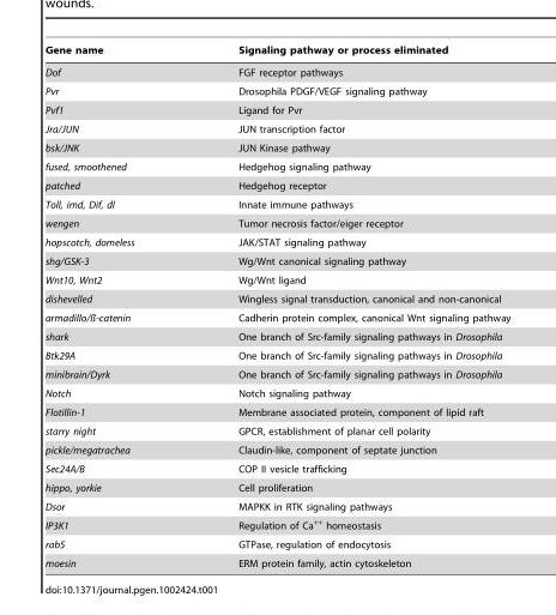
<table><thead><tr><td>Gene name</td><td>Signaling pathway or process eliminated</td></tr></thead><tbody><tr><td>Dof</td><td>FGF receptor pathways</td></tr><tr><td>Pvr</td><td>Drosophila PDGF/VEGF signaling pathway</td></tr><tr><td>Pvf1</td><td>Ligand for Pvr</td></tr><tr><td>Jra/JUN</td><td>JUN transcription factor</td></tr><tr><td>bsk/JNK</td><td>JUN Kinase pathway</td></tr><tr><td>fused, smoothened</td><td>Hedgehog signaling pathway</td></tr><tr><td>patched</td><td>Hedgehog receptor</td></tr><tr><td>Toll, imd, Dif, dl</td><td>Innate immune pathways</td></tr><tr><td>wengen</td><td>Tumor necrosis factor/eiger receptor</td></tr><tr><td>hopscotch, domeless</td><td>JAK/STAT signaling pathway</td></tr><tr><td>shg/GSK-3</td><td>Wg/Wnt canonical signaling pathway</td></tr><tr><td>Wnt10, Wnt2</td><td>Wg/Wnt ligand</td></tr><tr><td>dishevelled</td><td>Wingless signal transduction, canonical and non-canonical</td></tr><tr><td>armadillo/ß-catenin</td><td>Cadherin protein complex, canonical Wnt signaling pathway</td></tr><tr><td>shark</td><td>One branch of Src-family signaling pathways in Drosophila</td></tr><tr><td>Btk29A</td><td>One branch of Src-family signaling pathways in Drosophila</td></tr><tr><td>minibrain/Dyrk</td><td>One branch of Src-family signaling pathways in Drosophila</td></tr><tr><td>Notch</td><td>Notch signaling pathway</td></tr><tr><td>Flotillin-1</td><td>Membrane associated protein, component of lipid raft</td></tr><tr><td>starry night</td><td>GPCR, establishment of planar cell polarity</td></tr><tr><td>pickle/megatrachea</td><td>Claudin-like, component of septate junction</td></tr><tr><td>Sec24A/B</td><td>COP II vesicle trafficking</td></tr><tr><td>hippo, yorkie</td><td>Cell proliferation</td></tr><tr><td>Dsor</td><td>MAPKK in RTK signaling pathways</td></tr><tr><td>IP3K1</td><td>Regulation of Ca<sup>++</sup> homeostasis</td></tr><tr><td>rab5</td><td>GTPase, regulation of endocytosis</td></tr><tr><td>moesin</td><td>ERM protein family, actin cytoskeleton</td></tr></tbody></table>